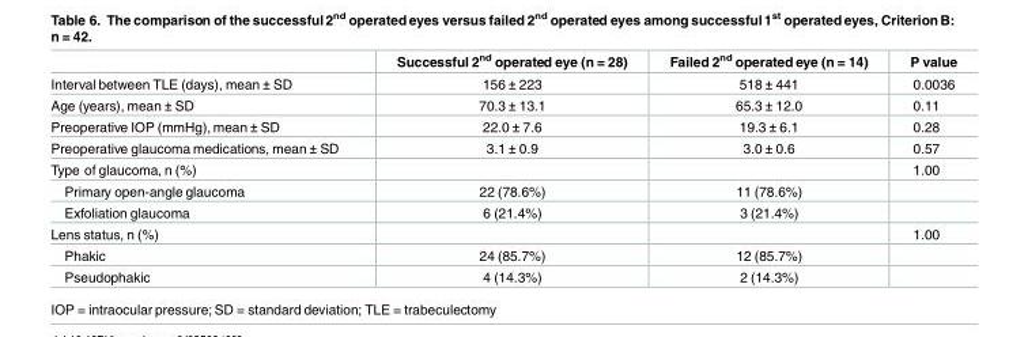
<table><thead><tr><td></td><td>Successful 2<sup>nd</sup> operated eye (n = 28)</td><td>Failed 2<sup>nd</sup> operated eye (n = 14)</td><td>P value</td></tr></thead><tbody><tr><td>Interval between TLE (days), mean ± SD</td><td>156 ± 223</td><td>518 ± 441</td><td>0.0036</td></tr><tr><td>Age (years), mean ± SD</td><td>70.3 ± 13.1</td><td>65.3 ± 12.0</td><td>0.11</td></tr><tr><td>Preoperative IOP (mmHg), mean ± SD</td><td>22.0 ± 7.6</td><td>19.3 ± 6.1</td><td>0.28</td></tr><tr><td>Preoperative glaucoma medications, mean ± SD</td><td>3.1 ± 0.9</td><td>3.0 ± 0.6</td><td>0.57</td></tr><tr><td>Type of glaucoma, n (%)</td><td></td><td></td><td>1.00</td></tr><tr><td>Primary open-angle glaucoma</td><td>22 (78.6%)</td><td>11 (78.6%)</td><td></td></tr><tr><td>Exfoliation glaucoma</td><td>6 (21.4%)</td><td>3 (21.4%)</td><td></td></tr><tr><td>Lens status, n (%)</td><td></td><td></td><td>1.00</td></tr><tr><td>Phakic</td><td>24 (85.7%)</td><td>12 (85.7%)</td><td></td></tr><tr><td>Pseudophakic</td><td>4 (14.3%)</td><td>2 (14.3%)</td><td></td></tr></tbody></table>